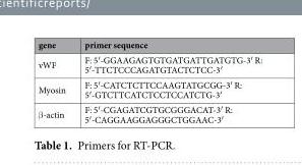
<table><thead><tr><td>gene</td><td>primer sequence</td></tr></thead><tbody><tr><td>vWF</td><td>F: 5′-GGAAGAGTGTGATGATTGATGTG-3′ R: 5′-TTCTCCCAGATGTACTCTCC-3′</td></tr><tr><td>Myosin</td><td>F: 5′-CATCTCTTCCAAGTATGCGG-3′ R: 5′-GTCTTCATCTCCTCCATCTG-3′</td></tr><tr><td>β-actin</td><td>F: 5′-CGAGATCGTGCGGGACAT-3′ R: 5′-CAGGAAGGAGGGCTGGAAC-3′</td></tr></tbody></table>